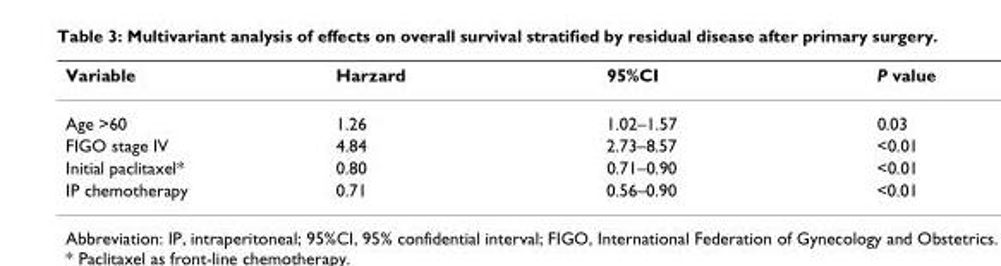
<table><thead><tr><td>Variable</td><td>Harzard</td><td>95%CI</td><td>P value</td></tr></thead><tbody><tr><td>Age &gt;60</td><td>1.26</td><td>1.02–1.57</td><td>0.03</td></tr><tr><td>FIGO stage IV</td><td>4.84</td><td>2.73–8.57</td><td>&lt;0.01</td></tr><tr><td>Initial paclitaxel*</td><td>0.80</td><td>0.71–0.90</td><td>&lt;0.01</td></tr><tr><td>IP chemotherapy</td><td>0.71</td><td>0.56–0.90</td><td>&lt;0.01</td></tr></tbody></table>